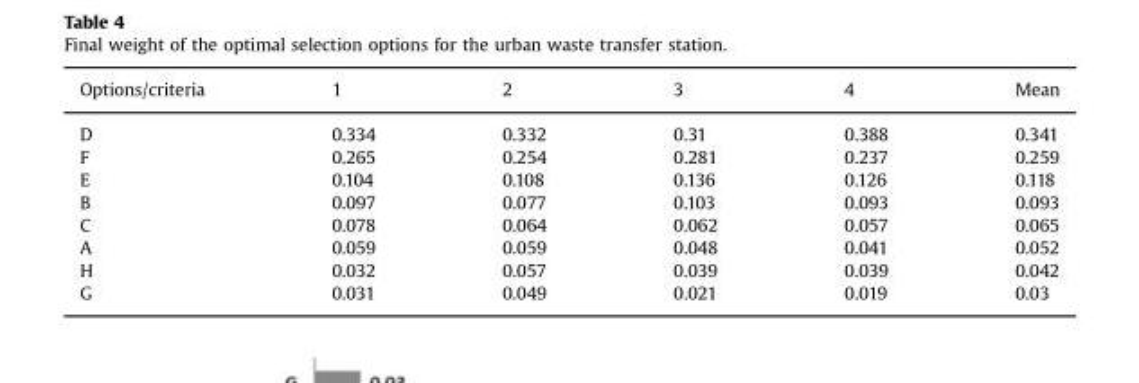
<table><thead><tr><td>Options/criteria</td><td>1</td><td>2</td><td>3</td><td>4</td><td>Mean</td></tr></thead><tbody><tr><td>D</td><td>0.334</td><td>0.332</td><td>0.31</td><td>0.388</td><td>0.341</td></tr><tr><td>F</td><td>0.265</td><td>0.254</td><td>0.281</td><td>0.237</td><td>0.259</td></tr><tr><td>E</td><td>0.104</td><td>0.108</td><td>0.136</td><td>0.126</td><td>0.118</td></tr><tr><td>B</td><td>0.097</td><td>0.077</td><td>0.103</td><td>0.093</td><td>0.093</td></tr><tr><td>C</td><td>0.078</td><td>0.064</td><td>0.062</td><td>0.057</td><td>0.065</td></tr><tr><td>A</td><td>0.059</td><td>0.059</td><td>0.048</td><td>0.041</td><td>0.052</td></tr><tr><td>H</td><td>0.032</td><td>0.057</td><td>0.039</td><td>0.039</td><td>0.042</td></tr><tr><td>G</td><td>0.031</td><td>0.049</td><td>0.021</td><td>0.019</td><td>0.03</td></tr></tbody></table>